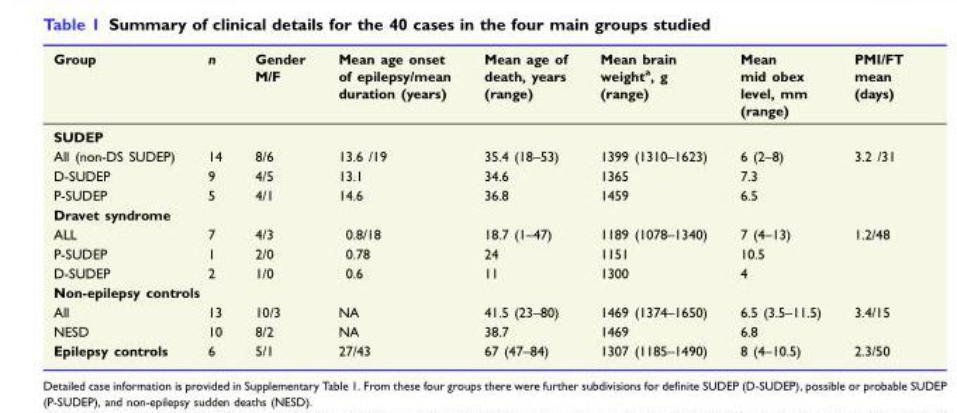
<table><thead><tr><td>Group</td><td>n</td><td>Gender M/F</td><td>Mean age onset of epilepsy/mean duration (years)</td><td>Mean age of death, years (range)</td><td>Mean brain weight<sup>a</sup>, g (range)</td><td>Mean mid obex level, mm (range)</td><td>PMI/FT mean (days)</td></tr></thead><tbody><tr><td colspan="8">SUDEP</td></tr><tr><td>All (non-DS SUDEP)</td><td>14</td><td>8/6</td><td>13.6 /19</td><td>35.4 (18–53)</td><td>1399 (1310–1623)</td><td>6 (2–8)</td><td>3.2 /31</td></tr><tr><td>D-SUDEP</td><td>9</td><td>4/5</td><td>13.1</td><td>34.6</td><td>1365</td><td>7.3</td><td></td></tr><tr><td>P-SUDEP</td><td>5</td><td>4/1</td><td>14.6</td><td>36.8</td><td>1459</td><td>6.5</td><td></td></tr><tr><td colspan="8">Dravet syndrome</td></tr><tr><td>ALL</td><td>7</td><td>4/3</td><td>0.8/18</td><td>18.7 (1–47)</td><td>1189 (1078–1340)</td><td>7 (4–13)</td><td>1.2/48</td></tr><tr><td>P-SUDEP</td><td>1</td><td>2/0</td><td>0.78</td><td>24</td><td>1151</td><td>10.5</td><td></td></tr><tr><td>D-SUDEP</td><td>2</td><td>1/0</td><td>0.6</td><td>11</td><td>1300</td><td>4</td><td></td></tr><tr><td colspan="8">Non-epilepsy controls</td></tr><tr><td>All</td><td>13</td><td>10/3</td><td>NA</td><td>41.5 (23–80)</td><td>1469 (1374–1650)</td><td>6.5 (3.5–11.5)</td><td>3.4/15</td></tr><tr><td>NESD</td><td>10</td><td>8/2</td><td>NA</td><td>38.7</td><td>1469</td><td>6.8</td><td></td></tr><tr><td>Epilepsy controls</td><td>6</td><td>5/1</td><td>27/43</td><td>67 (47–84)</td><td>1307 (1185–1490)</td><td>8 (4–10.5)</td><td>2.3/50</td></tr></tbody></table>